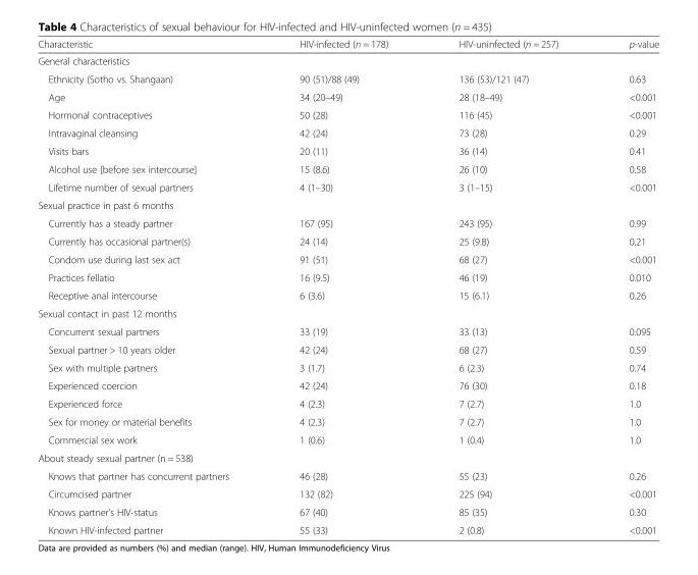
<table><thead><tr><td>Characteristic</td><td>HIV-infected (n = 178)</td><td>HIV-uninfected (n = 257)</td><td>p-value</td></tr></thead><tbody><tr><td colspan="4">General characteristics</td></tr><tr><td>Ethnicity (Sotho vs. Shangaan)</td><td>90 (51)/88 (49)</td><td>136 (53)/121 (47)</td><td>0.63</td></tr><tr><td>Age</td><td>34 (20–49)</td><td>28 (18–49)</td><td>&lt;0.001</td></tr><tr><td>Hormonal contraceptives</td><td>50 (28)</td><td>116 (45)</td><td>&lt;0.001</td></tr><tr><td>Intravaginal cleansing</td><td>42 (24)</td><td>73 (28)</td><td>0.29</td></tr><tr><td>Visits bars</td><td>20 (11)</td><td>36 (14)</td><td>0.41</td></tr><tr><td>Alcohol use [before sex intercourse]</td><td>15 (8.6)</td><td>26 (10)</td><td>0.58</td></tr><tr><td>Lifetime number of sexual partners</td><td>4 (1–30)</td><td>3 (1–15)</td><td>&lt;0.001</td></tr><tr><td colspan="4">Sexual practice in past 6 months</td></tr><tr><td>Currently has a steady partner</td><td>167 (95)</td><td>243 (95)</td><td>0.99</td></tr><tr><td>Currently has occasional partner(s)</td><td>24 (14)</td><td>25 (9.8)</td><td>0.21</td></tr><tr><td>Condom use during last sex act</td><td>91 (51)</td><td>68 (27)</td><td>&lt;0.001</td></tr><tr><td>Practices fellatio</td><td>16 (9.5)</td><td>46 (19)</td><td>0.010</td></tr><tr><td>Receptive anal intercourse</td><td>6 (3.6)</td><td>15 (6.1)</td><td>0.26</td></tr><tr><td colspan="4">Sexual contact in past 12 months</td></tr><tr><td>Concurrent sexual partners</td><td>33 (19)</td><td>33 (13)</td><td>0.095</td></tr><tr><td>Sexual partner &gt; 10 years older</td><td>42 (24)</td><td>68 (27)</td><td>0.59</td></tr><tr><td>Sex with multiple partners</td><td>3 (1.7)</td><td>6 (2.3)</td><td>0.74</td></tr><tr><td>Experienced coercion</td><td>42 (24)</td><td>76 (30)</td><td>0.18</td></tr><tr><td>Experienced force</td><td>4 (2.3)</td><td>7 (2.7)</td><td>1.0</td></tr><tr><td>Sex for money or material benefits</td><td>4 (2.3)</td><td>7 (2.7)</td><td>1.0</td></tr><tr><td>Commercial sex work</td><td>1 (0.6)</td><td>1 (0.4)</td><td>1.0</td></tr><tr><td colspan="4">About steady sexual partner (n = 538)</td></tr><tr><td>Knows that partner has concurrent partners</td><td>46 (28)</td><td>55 (23)</td><td>0.26</td></tr><tr><td>Circumcised partner</td><td>132 (82)</td><td>225 (94)</td><td>&lt;0.001</td></tr><tr><td>Knows partner’s HIV-status</td><td>67 (40)</td><td>85 (35)</td><td>0.30</td></tr><tr><td>Known HIV-infected partner</td><td>55 (33)</td><td>2 (0.8)</td><td>&lt;0.001</td></tr></tbody></table>